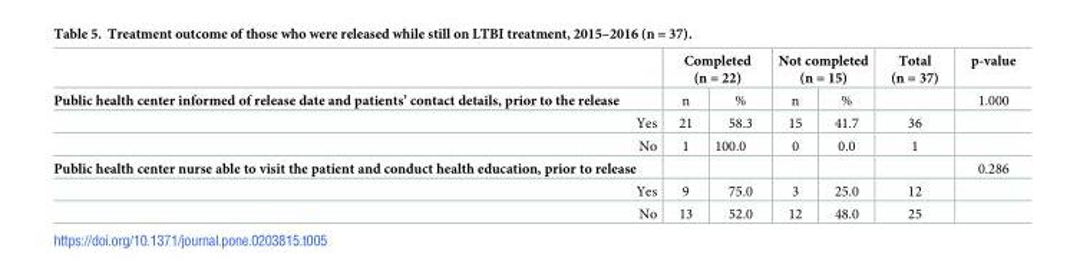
<table><thead><tr><td rowspan="2">Public health center informed of release date and patients’ contact details, prior to the release</td><td colspan="2">Completed (n = 22)</td><td colspan="2">Not completed (n = 15)</td><td rowspan="2">Total (n = 37)</td><td rowspan="2">p-value 1.000</td></tr><tr><td>n</td><td>%</td><td>n</td><td>%</td></tr></thead><tbody><tr><td>Yes</td><td>21</td><td>58.3</td><td>15</td><td>41.7</td><td>36</td><td></td></tr><tr><td>No</td><td>1</td><td>100.0</td><td>0</td><td>0.0</td><td>1</td><td></td></tr><tr><td>Public health center nurse able to visit the patient and conduct health education, prior to release</td><td></td><td></td><td></td><td></td><td></td><td>0.286</td></tr><tr><td>Yes</td><td>9</td><td>75.0</td><td>3</td><td>25.0</td><td>12</td><td></td></tr><tr><td>No</td><td>13</td><td>52.0</td><td>12</td><td>48.0</td><td>25</td><td></td></tr></tbody></table>